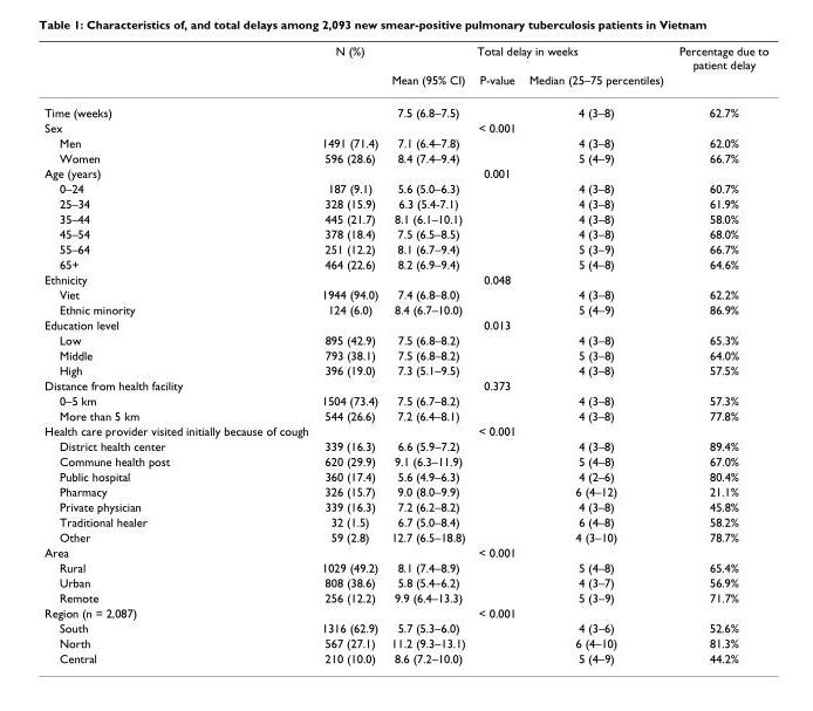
<table><thead><tr><td rowspan="2"></td><td rowspan="2">N (%)</td><td colspan="3">Total delay in weeks</td><td rowspan="2">Percentage due to patient delay</td></tr><tr><td>Mean (95% CI)</td><td>P-value</td><td>Median (25–75 percentiles)</td></tr></thead><tbody><tr><td>Time (weeks)</td><td></td><td>7.5 (6.8–7.5)</td><td></td><td>4 (3–8)</td><td>62.7%</td></tr><tr><td>Sex</td><td></td><td></td><td>&lt; 0.001</td><td></td><td></td></tr><tr><td>Men</td><td>1491 (71.4)</td><td>7.1 (6.4–7.8)</td><td></td><td>4 (3–8)</td><td>62.0%</td></tr><tr><td>Women</td><td>596 (28.6)</td><td>8.4 (7.4–9.4)</td><td></td><td>5 (4–9)</td><td>66.7%</td></tr><tr><td>Age (years)</td><td></td><td></td><td>0.001</td><td></td><td></td></tr><tr><td>0–24</td><td>187 (9.1)</td><td>5.6 (5.0–6.3)</td><td></td><td>4 (3–8)</td><td>60.7%</td></tr><tr><td>25–34</td><td>328 (15.9)</td><td>6.3 (5.4-7.1)</td><td></td><td>4 (3–8)</td><td>61.9%</td></tr><tr><td>35–44</td><td>445 (21.7)</td><td>8.1 (6.1–10.1)</td><td></td><td>4 (3–8)</td><td>58.0%</td></tr><tr><td>45–54</td><td>378 (18.4)</td><td>7.5 (6.5–8.5)</td><td></td><td>4 (3–8)</td><td>68.0%</td></tr><tr><td>55–64</td><td>251 (12.2)</td><td>8.1 (6.7–9.4)</td><td></td><td>5 (3–9)</td><td>66.7%</td></tr><tr><td>65+</td><td>464 (22.6)</td><td>8.2 (6.9–9.4)</td><td></td><td>5 (4–8)</td><td>64.6%</td></tr><tr><td>Ethnicity</td><td></td><td></td><td>0.048</td><td></td><td></td></tr><tr><td>Viet</td><td>1944 (94.0)</td><td>7.4 (6.8–8.0)</td><td></td><td>4 (3–8)</td><td>62.2%</td></tr><tr><td>Ethnic minority</td><td>124 (6.0)</td><td>8.4 (6.7–10.0)</td><td></td><td>5 (4–9)</td><td>86.9%</td></tr><tr><td>Education level</td><td></td><td></td><td>0.013</td><td></td><td></td></tr><tr><td>Low</td><td>895 (42.9)</td><td>7.5 (6.8–8.2)</td><td></td><td>4 (3–8)</td><td>65.3%</td></tr><tr><td>Middle</td><td>793 (38.1)</td><td>7.5 (6.8–8.2)</td><td></td><td>5 (3–8)</td><td>64.0%</td></tr><tr><td>High</td><td>396 (19.0)</td><td>7.3 (5.1–9.5)</td><td></td><td>4 (3–8)</td><td>57.5%</td></tr><tr><td>Distance from health facility</td><td></td><td></td><td>0.373</td><td></td><td></td></tr><tr><td>0–5 km</td><td>1504 (73.4)</td><td>7.5 (6.7–8.2)</td><td></td><td>4 (3–8)</td><td>57.3%</td></tr><tr><td>More than 5 km</td><td>544 (26.6)</td><td>7.2 (6.4–8.1)</td><td></td><td>4 (3–8)</td><td>77.8%</td></tr><tr><td>Health care provider visited initially because of cough</td><td></td><td></td><td>&lt; 0.001</td><td></td><td></td></tr><tr><td>District health center</td><td>339 (16.3)</td><td>6.6 (5.9–7.2)</td><td></td><td>4 (3–8)</td><td>89.4%</td></tr><tr><td>Commune health post</td><td>620 (29.9)</td><td>9.1 (6.3–11.9)</td><td></td><td>5 (4–8)</td><td>67.0%</td></tr><tr><td>Public hospital</td><td>360 (17.4)</td><td>5.6 (4.9–6.3)</td><td></td><td>4 (2–6)</td><td>80.4%</td></tr><tr><td>Pharmacy</td><td>326 (15.7)</td><td>9.0 (8.0–9.9)</td><td></td><td>6 (4–12)</td><td>21.1%</td></tr><tr><td>Private physician</td><td>339 (16.3)</td><td>7.2 (6.2–8.2)</td><td></td><td>4 (3–8)</td><td>45.8%</td></tr><tr><td>Traditional healer</td><td>32 (1.5)</td><td>6.7 (5.0–8.4)</td><td></td><td>6 (4–8)</td><td>58.2%</td></tr><tr><td>Other</td><td>59 (2.8)</td><td>12.7 (6.5–18.8)</td><td></td><td>4 (3–10)</td><td>78.7%</td></tr><tr><td>Area</td><td></td><td></td><td>&lt; 0.001</td><td></td><td></td></tr><tr><td>Rural</td><td>1029 (49.2)</td><td>8.1 (7.4–8.9)</td><td></td><td>5 (4–8)</td><td>65.4%</td></tr><tr><td>Urban</td><td>808 (38.6)</td><td>5.8 (5.4–6.2)</td><td></td><td>4 (3–7)</td><td>56.9%</td></tr><tr><td>Remote</td><td>256 (12.2)</td><td>9.9 (6.4–13.3)</td><td></td><td>5 (3–9)</td><td>71.7%</td></tr><tr><td>Region (n = 2,087)</td><td></td><td></td><td>&lt; 0.001</td><td></td><td></td></tr><tr><td>South</td><td>1316 (62.9)</td><td>5.7 (5.3–6.0)</td><td></td><td>4 (3–6)</td><td>52.6%</td></tr><tr><td>North</td><td>567 (27.1)</td><td>11.2 (9.3–13.1)</td><td></td><td>6 (4–10)</td><td>81.3%</td></tr><tr><td>Central</td><td>210 (10.0)</td><td>8.6 (7.2–10.0)</td><td></td><td>5 (4–9)</td><td>44.2%</td></tr></tbody></table>